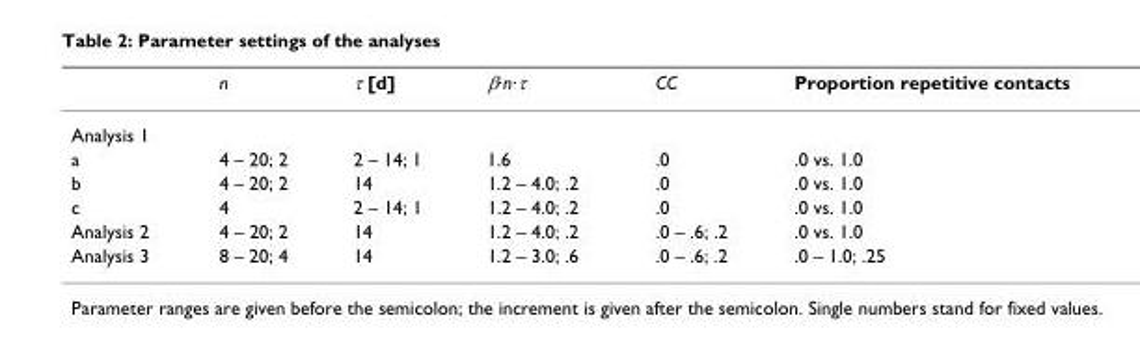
<table><thead><tr><td></td><td>n</td><td>τ [d]</td><td>β·n·τ</td><td>CC</td><td>Proportion repetitive contacts</td></tr></thead><tbody><tr><td colspan="6">Analysis 1</td></tr><tr><td>a</td><td>4 – 20; 2</td><td>2 – 14; 1</td><td>1.6</td><td>.0</td><td>.0 vs. 1.0</td></tr><tr><td>b</td><td>4 – 20; 2</td><td>14</td><td>1.2 – 4.0; .2</td><td>.0</td><td>.0 vs. 1.0</td></tr><tr><td>c</td><td>4</td><td>2 – 14; 1</td><td>1.2 – 4.0; .2</td><td>.0</td><td>.0 vs. 1.0</td></tr><tr><td>Analysis 2</td><td>4 – 20; 2</td><td>14</td><td>1.2 – 4.0; .2</td><td>.0 – .6; .2</td><td>.0 vs. 1.0</td></tr><tr><td>Analysis 3</td><td>8 – 20; 4</td><td>14</td><td>1.2 – 3.0; .6</td><td>.0 – .6; .2</td><td>.0 – 1.0; .25</td></tr></tbody></table>